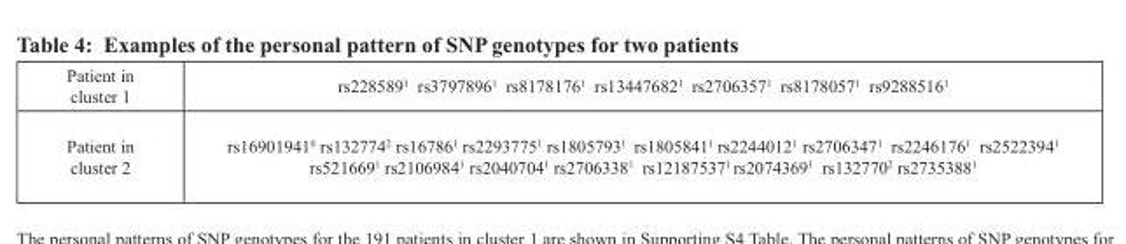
<table><tbody><tr><td>Patient in cluster 1</td><td>rs228589<sup>1</sup> rs3797896<sup>1</sup> rs8178176<sup>1</sup> rs13447682<sup>1</sup> rs2706357<sup>1</sup> rs8178057<sup>1</sup> rs9288516<sup>1</sup></td></tr><tr><td>Patient in cluster 2</td><td>rs16901941<sup>0</sup> rs132774<sup>2</sup> rs16786<sup>1</sup> rs2293775<sup>1</sup> rs1805793<sup>1</sup> rs1805841<sup>1</sup> rs2244012<sup>1</sup> rs2706347<sup>1</sup> rs2246176<sup>1</sup> rs2522394<sup>1</sup> rs521669<sup>1</sup> rs2106984<sup>1</sup> rs2040704<sup>1</sup> rs2706338<sup>1</sup> rs12187537<sup>1</sup> rs2074369<sup>1</sup> rs1327702 rs2735388<sup>1</sup></td></tr></tbody></table>